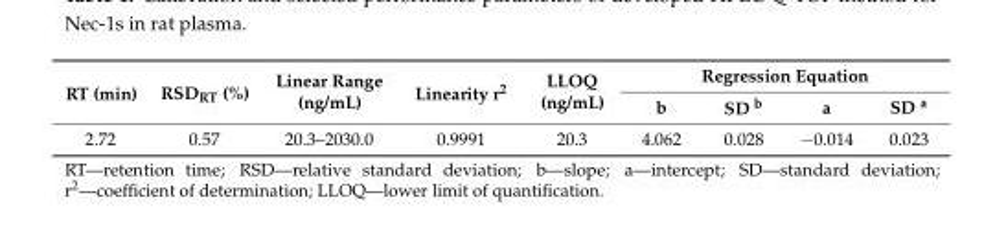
<table><thead><tr><td rowspan="2">RT (min)</td><td rowspan="2">RSD<sub>RT</sub> (%)</td><td rowspan="2">Linear Range (ng/mL)</td><td rowspan="2">Linearity r<sup>2</sup></td><td rowspan="2">LLOQ (ng/mL)</td><td colspan="4">Regression Equation</td></tr><tr><td>b</td><td>SD <sup>b</sup></td><td>a</td><td>SD <sup>a</sup></td></tr></thead><tbody><tr><td>2.72</td><td>0.57</td><td>20.3–2030.0</td><td>0.9991</td><td>20.3</td><td>4.062</td><td>0.028</td><td>−0.014</td><td>0.023</td></tr></tbody></table>